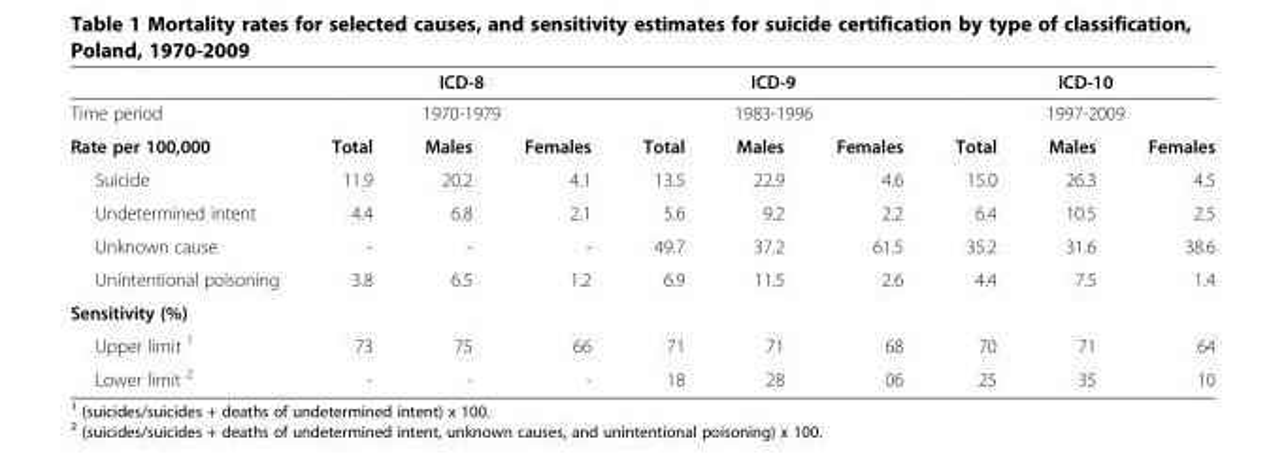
<table><thead><tr><td rowspan="3">Time period Rate per 100,000</td><td rowspan="2" colspan="3">ICD-8 1970-1979</td><td rowspan="2" colspan="3">ICD-9 1983-1996</td><td rowspan="2" colspan="3">ICD-10 1997-2009</td></tr><tr></tr><tr><td>Total</td><td>Males</td><td>Females</td><td>Total</td><td>Males</td><td>Females</td><td>Total</td><td>Males</td><td>Females</td></tr></thead><tbody><tr><td>Suicide</td><td>11.9</td><td>20.2</td><td>4.1</td><td>13.5</td><td>22.9</td><td>4.6</td><td>15.0</td><td>26.3</td><td>4.5</td></tr><tr><td>Undetermined intent</td><td>4.4</td><td>6.8</td><td>2.1</td><td>5.6</td><td>9.2</td><td>2.2</td><td>6.4</td><td>10.5</td><td>2.5</td></tr><tr><td>Unknown cause</td><td>-</td><td>-</td><td>-</td><td>49.7</td><td>37.2</td><td>61.5</td><td>35.2</td><td>31.6</td><td>38.6</td></tr><tr><td>Unintentional poisoning</td><td>3.8</td><td>6.5</td><td>1.2</td><td>6.9</td><td>11.5</td><td>2.6</td><td>4.4</td><td>7.5</td><td>1.4</td></tr><tr><td colspan="10">Sensitivity (%)</td></tr><tr><td>Upper limit <sup>1</sup></td><td>73</td><td>75</td><td>66</td><td>71</td><td>71</td><td>68</td><td>70</td><td>71</td><td>64</td></tr><tr><td>Lower limit <sup>2</sup></td><td>-</td><td>-</td><td>-</td><td>18</td><td>28</td><td>06</td><td>25</td><td>35</td><td>10</td></tr></tbody></table>